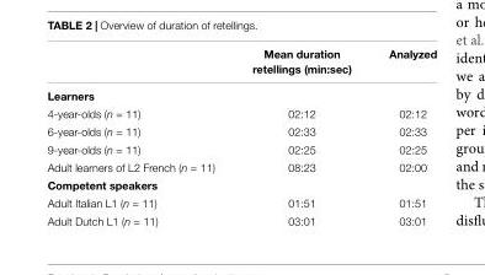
<table><thead><tr><td></td><td>Mean duration retellings (min:sec)</td><td>Analyzed</td></tr></thead><tbody><tr><td colspan="3">Learners</td></tr><tr><td>4-year-olds (n = 11)</td><td>02:12</td><td>02:12</td></tr><tr><td>6-year-olds (n = 11)</td><td>02:33</td><td>02:33</td></tr><tr><td>9-year-olds (n = 11)</td><td>02:25</td><td>02:25</td></tr><tr><td>Adult learners of L2 French (n = 11)</td><td>08:23</td><td>02:00</td></tr><tr><td colspan="3">Competent speakers</td></tr><tr><td>Adult Italian L1 (n = 11)</td><td>01:51</td><td>01:51</td></tr><tr><td>Adult Dutch L1 (n = 11)</td><td>03:01</td><td>03:01</td></tr></tbody></table>